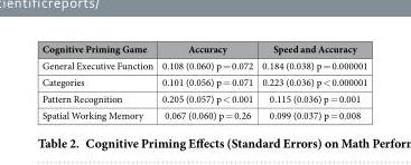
<table><thead><tr><td>Cognitive Priming Game</td><td>Accuracy</td><td>Speed and Accuracy</td></tr></thead><tbody><tr><td>General Executive Function</td><td>0.108 (0.060) p = 0.072</td><td>0.184 (0.038) p = 0.000001</td></tr><tr><td>Categories</td><td>0.101 (0.056) p = 0.071</td><td>0.223 (0.036) p &lt; 0.000001</td></tr><tr><td>Pattern Recognition</td><td>0.205 (0.057) p &lt; 0.001</td><td>0.115 (0.036) p = 0.001</td></tr><tr><td>Spatial Working Memory</td><td>0.067 (0.060) p = 0.26</td><td>0.099 (0.037) p = 0.008</td></tr></tbody></table>